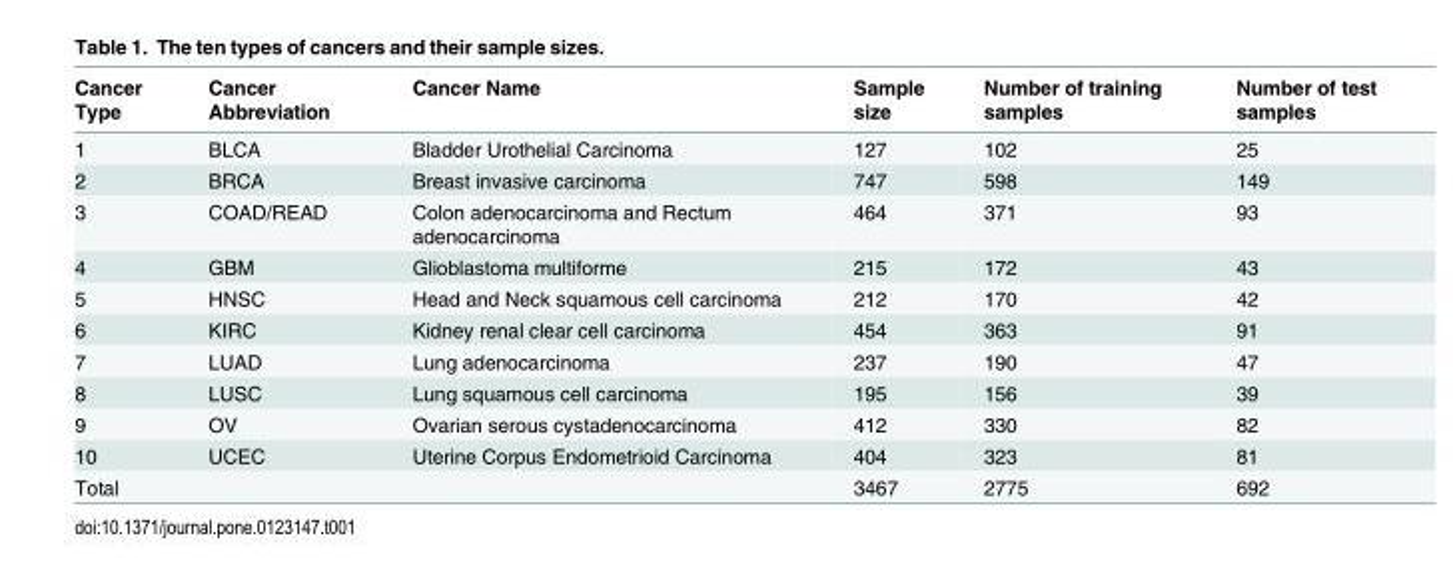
<table><thead><tr><td>Cancer Type</td><td>Cancer Abbreviation</td><td>Cancer Name</td><td>Sample size</td><td>Number of training samples</td><td>Number of test samples</td></tr></thead><tbody><tr><td>1</td><td>BLCA</td><td>Bladder Urothelial Carcinoma</td><td>127</td><td>102</td><td>25</td></tr><tr><td>2</td><td>BRCA</td><td>Breast invasive carcinoma</td><td>747</td><td>598</td><td>149</td></tr><tr><td>3</td><td>COAD/READ</td><td>Colon adenocarcinoma and Rectum adenocarcinoma</td><td>464</td><td>371</td><td>93</td></tr><tr><td>4</td><td>GBM</td><td>Glioblastoma multiforme</td><td>215</td><td>172</td><td>43</td></tr><tr><td>5</td><td>HNSC</td><td>Head and Neck squamous cell carcinoma</td><td>212</td><td>170</td><td>42</td></tr><tr><td>6</td><td>KIRC</td><td>Kidney renal clear cell carcinoma</td><td>454</td><td>363</td><td>91</td></tr><tr><td>7</td><td>LUAD</td><td>Lung adenocarcinoma</td><td>237</td><td>190</td><td>47</td></tr><tr><td>8</td><td>LUSC</td><td>Lung squamous cell carcinoma</td><td>195</td><td>156</td><td>39</td></tr><tr><td>9</td><td>OV</td><td>Ovarian serous cystadenocarcinoma</td><td>412</td><td>330</td><td>82</td></tr><tr><td>10</td><td>UCEC</td><td>Uterine Corpus Endometrioid Carcinoma</td><td>404</td><td>323</td><td>81</td></tr><tr><td colspan="3">Total</td><td>3467</td><td>2775</td><td>692</td></tr></tbody></table>